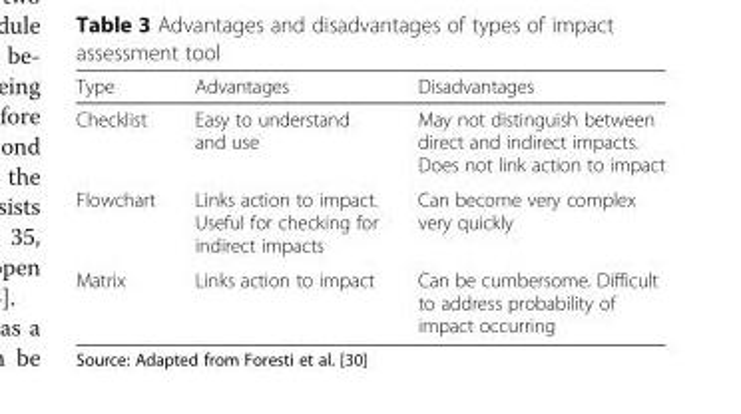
<table><thead><tr><td>Type</td><td>Advantages</td><td>Disadvantages</td></tr></thead><tbody><tr><td>Checklist</td><td>Easy to understand and use</td><td>May not distinguish between direct and indirect impacts. Does not link action to impact</td></tr><tr><td>Flowchart</td><td>Links action to impact. Useful for checking for indirect impacts</td><td>Can become very complex very quickly</td></tr><tr><td>Matrix</td><td>Links action to impact</td><td>Can be cumbersome. Difficult to address probability of impact occurring</td></tr></tbody></table>